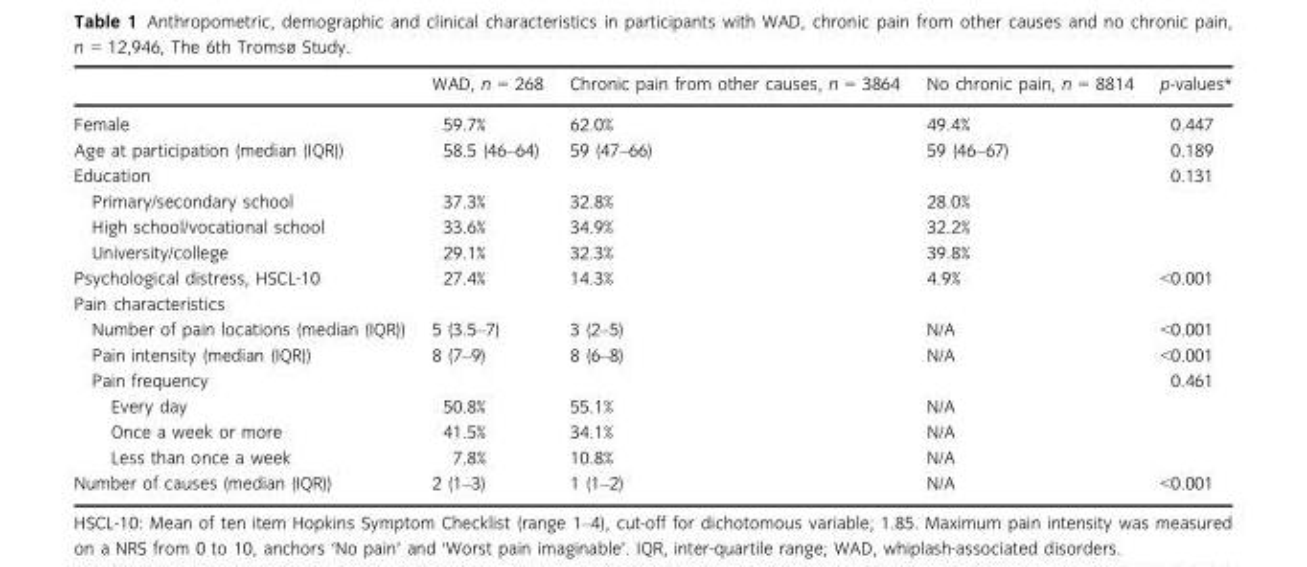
<table><thead><tr><td></td><td>WAD, n = 268</td><td>Chronic pain from other causes, n = 3864</td><td>No chronic pain, n = 8814</td><td>p-values*</td></tr></thead><tbody><tr><td>Female</td><td>59.7%</td><td>62.0%</td><td>49.4%</td><td>0.447</td></tr><tr><td>Age at participation (median (IQR))</td><td>58.5 (46–64)</td><td>59 (47–66)</td><td>59 (46–67)</td><td>0.189</td></tr><tr><td>Education</td><td></td><td></td><td></td><td>0.131</td></tr><tr><td>Primary/secondary school</td><td>37.3%</td><td>32.8%</td><td>28.0%</td><td></td></tr><tr><td>High school/vocational school</td><td>33.6%</td><td>34.9%</td><td>32.2%</td><td></td></tr><tr><td>University/college</td><td>29.1%</td><td>32.3%</td><td>39.8%</td><td></td></tr><tr><td>Psychological distress, HSCL-10</td><td>27.4%</td><td>14.3%</td><td>4.9%</td><td>&lt;0.001</td></tr><tr><td colspan="5">Pain characteristics</td></tr><tr><td>Number of pain locations (median (IQR))</td><td>5 (3.5–7)</td><td>3 (2–5)</td><td>N/A</td><td>&lt;0.001</td></tr><tr><td>Pain intensity (median (IQR))</td><td>8 (7–9)</td><td>8 (6–8)</td><td>N/A</td><td>&lt;0.001</td></tr><tr><td>Pain frequency</td><td></td><td></td><td></td><td>0.461</td></tr><tr><td>Every day</td><td>50.8%</td><td>55.1%</td><td>N/A</td><td></td></tr><tr><td>Once a week or more</td><td>41.5%</td><td>34.1%</td><td>N/A</td><td></td></tr><tr><td>Less than once a week</td><td>7.8%</td><td>10.8%</td><td>N/A</td><td></td></tr><tr><td>Number of causes (median (IQR))</td><td>2 (1–3)</td><td>1 (1–2)</td><td>N/A</td><td>&lt;0.001</td></tr></tbody></table>